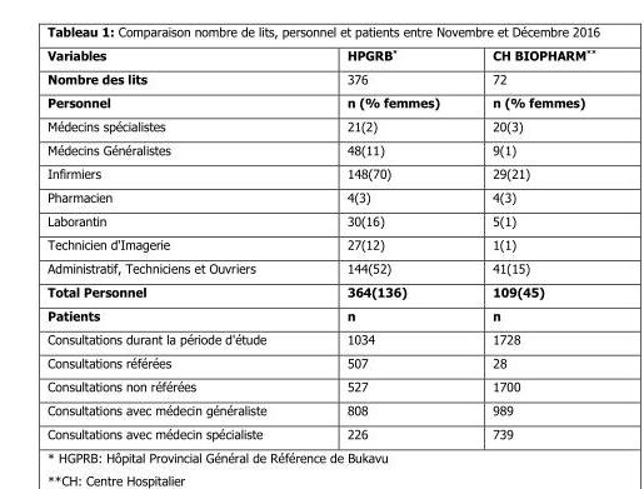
<table><thead><tr><td>Variables</td><td>HPGRB*</td><td>CH BIOPHARM**</td></tr></thead><tbody><tr><td>Nombre des lits</td><td>376</td><td>72</td></tr><tr><td>Personnel</td><td>n (% femmes)</td><td>n (% femmes)</td></tr><tr><td>Médecins spécialistes</td><td>21(2)</td><td>20(3)</td></tr><tr><td>Médecins Généralistes</td><td>48(11)</td><td>9(1)</td></tr><tr><td>Infirmiers</td><td>148(70)</td><td>29(21)</td></tr><tr><td>Pharmacien</td><td>4(3)</td><td>4(3)</td></tr><tr><td>Laborantin</td><td>30(16)</td><td>5(1)</td></tr><tr><td>Technicien d&#x27;Imagerie</td><td>27(12)</td><td>1(1)</td></tr><tr><td>Administratif, Techniciens et Ouvriers</td><td>144(52)</td><td>41(15)</td></tr><tr><td>Total Personnel</td><td>364(136)</td><td>109(45)</td></tr><tr><td>Patients</td><td>n</td><td>n</td></tr><tr><td>Consultations durant la période d&#x27;étude</td><td>1034</td><td>1728</td></tr><tr><td>Consultations référées</td><td>507</td><td>28</td></tr><tr><td>Consultations non référées</td><td>527</td><td>1700</td></tr><tr><td>Consultations avec médecin généraliste</td><td>808</td><td>989</td></tr><tr><td>Consultations avec médecin spécialiste</td><td>226</td><td>739</td></tr></tbody></table>